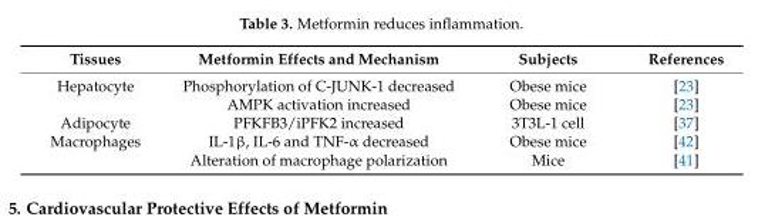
<table><thead><tr><td>Tissues</td><td>Metformin Effects and Mechanism</td><td>Subjects</td><td>References</td></tr></thead><tbody><tr><td rowspan="2">Hepatocyte</td><td>Phosphorylation of C-JUNK-1 decreased</td><td>Obese mice</td><td>[23]</td></tr><tr><td>AMPK activation increased</td><td>Obese mice</td><td>[23]</td></tr><tr><td>Adipocyte</td><td>PFKFB3/iPFK2 increased</td><td>3T3L-1 cell</td><td>[37]</td></tr><tr><td rowspan="2">Macrophages</td><td>IL-1β, IL-6 and TNF-α decreased</td><td>Obese mice</td><td>[42]</td></tr><tr><td>Alteration of macrophage polarization</td><td>Mice</td><td>[41]</td></tr></tbody></table>